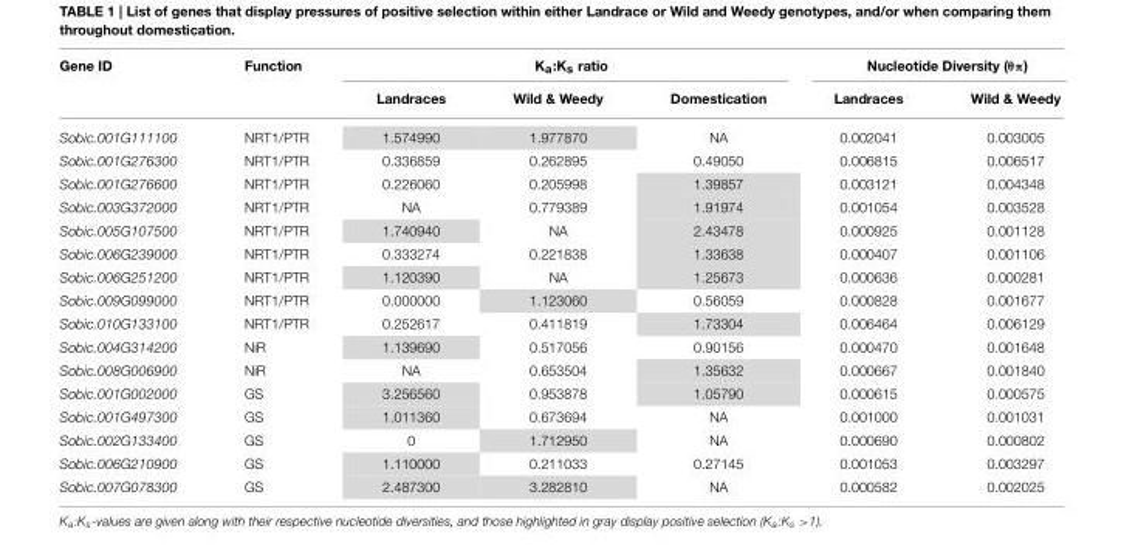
<table><thead><tr><td rowspan="2">Gene ID</td><td rowspan="2">Function</td><td colspan="3">K<sub>a</sub>:K<sub>s</sub> ratio</td><td colspan="2">Nucleotide Diversity (θπ)</td></tr><tr><td>Landraces</td><td>Wild &amp; Weedy</td><td>Domestication</td><td>Landraces</td><td>Wild &amp; Weedy</td></tr></thead><tbody><tr><td>Sobic.001G111100</td><td>NRT1/PTR</td><td>1.574990</td><td>1.977870</td><td>NA</td><td>0.002041</td><td>0.003005</td></tr><tr><td>Sobic.001G276300</td><td>NRT1/PTR</td><td>0.336859</td><td>0.262895</td><td>0.49050</td><td>0.006815</td><td>0.006517</td></tr><tr><td>Sobic.001G276600</td><td>NRT1/PTR</td><td>0.226060</td><td>0.205998</td><td>1.39857</td><td>0.003121</td><td>0.004348</td></tr><tr><td>Sobic.003G372000</td><td>NRT1/PTR</td><td>NA</td><td>0.779389</td><td>1.91974</td><td>0.001054</td><td>0.003528</td></tr><tr><td>Sobic.005G107500</td><td>NRT1/PTR</td><td>1.740940</td><td>NA</td><td>2.43478</td><td>0.000925</td><td>0.001128</td></tr><tr><td>Sobic.006G239000</td><td>NRT1/PTR</td><td>0.333274</td><td>0.221838</td><td>1.33638</td><td>0.000407</td><td>0.001106</td></tr><tr><td>Sobic.006G251200</td><td>NRT1/PTR</td><td>1.120390</td><td>NA</td><td>1.25673</td><td>0.000636</td><td>0.000281</td></tr><tr><td>Sobic.009G099000</td><td>NRT1/PTR</td><td>0.000000</td><td>1.123060</td><td>0.56059</td><td>0.000828</td><td>0.001677</td></tr><tr><td>Sobic.010G133100</td><td>NRT1/PTR</td><td>0.252617</td><td>0.411819</td><td>1.73304</td><td>0.006464</td><td>0.006129</td></tr><tr><td>Sobic.004G314200</td><td>NiR</td><td>1.139690</td><td>0.517056</td><td>0.90156</td><td>0.000470</td><td>0.001648</td></tr><tr><td>Sobic.008G006900</td><td>NiR</td><td>NA</td><td>0.653504</td><td>1.35632</td><td>0.000667</td><td>0.001840</td></tr><tr><td>Sobic.001G002000</td><td>GS</td><td>3.256560</td><td>0.953878</td><td>1.05790</td><td>0.000615</td><td>0.000575</td></tr><tr><td>Sobic.001G497300</td><td>GS</td><td>1.011360</td><td>0.673694</td><td>NA</td><td>0.001000</td><td>0.001031</td></tr><tr><td>Sobic.002G133400</td><td>GS</td><td>0</td><td>1.712950</td><td>NA</td><td>0.000690</td><td>0.000802</td></tr><tr><td>Sobic.006G210900</td><td>GS</td><td>1.110000</td><td>0.211033</td><td>0.27145</td><td>0.001053</td><td>0.003297</td></tr><tr><td>Sobic.007G078300</td><td>GS</td><td>2.487300</td><td>3.282810</td><td>NA</td><td>0.000582</td><td>0.002025</td></tr></tbody></table>